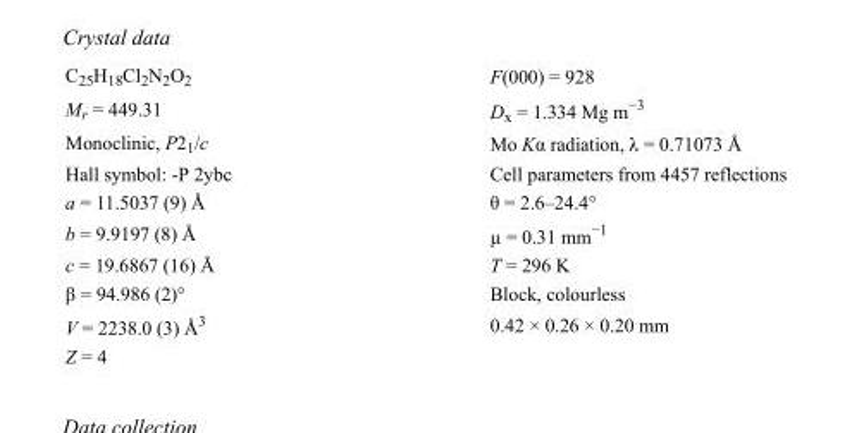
<table><tbody><tr><td>C<sub>25</sub>H<sub>18</sub>Cl<sub>2</sub>N<sub>2</sub>O<sub>2</sub></td><td>F(000) = 928</td></tr><tr><td>M<sub>r</sub> = 449.31</td><td>D<sub>x</sub> = 1.334 Mg m<sup>−3</sup></td></tr><tr><td>Monoclinic, P2<sub>1</sub>/c</td><td>Mo Kα radiation, λ = 0.71073 Å</td></tr><tr><td>Hall symbol: -P 2ybc</td><td>Cell parameters from 4457 reflections</td></tr><tr><td>a = 11.5037 (9) Å</td><td>θ = 2.6–24.4°</td></tr><tr><td>b = 9.9197 (8) Å</td><td>µ = 0.31 mm<sup>−1</sup></td></tr><tr><td>c = 19.6867 (16) Å</td><td>T = 296 K</td></tr><tr><td>β = 94.986 (2)°</td><td>Block, colourless</td></tr><tr><td>V = 2238.0 (3) Å<sup>3</sup></td><td>0.42 × 0.26 × 0.20 mm</td></tr><tr><td>Z = 4</td><td></td></tr></tbody></table>